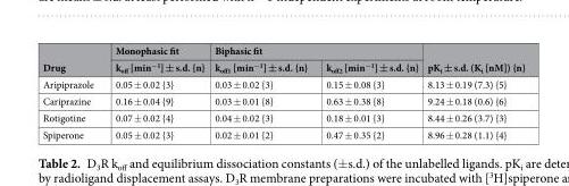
<table><thead><tr><td rowspan="2">Drug</td><td rowspan="2">Monophasic fit k<sub>off</sub> [min<sup>−1</sup>] ± s.d. {n}</td><td colspan="2">Biphasic fit</td><td rowspan="2">pK<sub>i</sub> ± s.d. (K<sub>i</sub> [nM]) {n}</td></tr><tr><td>k<sub>off1</sub> [min<sup>−1</sup>] ± s.d. {n}</td><td>k<sub>off2</sub> [min<sup>−1</sup>] ± s.d. {n}</td></tr></thead><tbody><tr><td>Aripiprazole</td><td>0.05 ± 0.02 {3}</td><td>0.03 ± 0.02 {3}</td><td>0.15 ± 0.08 {3}</td><td>8.13 ± 0.19 (7.3) {5}</td></tr><tr><td>Cariprazine</td><td>0.16 ± 0.04 {9}</td><td>0.03 ± 0.01 {8}</td><td>0.63 ± 0.38 {8}</td><td>9.24 ± 0.18 (0.6) {6}</td></tr><tr><td>Rotigotine</td><td>0.07 ± 0.02 {4}</td><td>0.04 ± 0.02 {3}</td><td>0.18 ± 0.01 {3}</td><td>8.44 ± 0.26 (3.7) {3}</td></tr><tr><td>Spiperone</td><td>0.05 ± 0.02 {3}</td><td>0.02 ± 0.01 {2}</td><td>0.47 ± 0.35 {2}</td><td>8.96 ± 0.28 (1.1) {4}</td></tr></tbody></table>